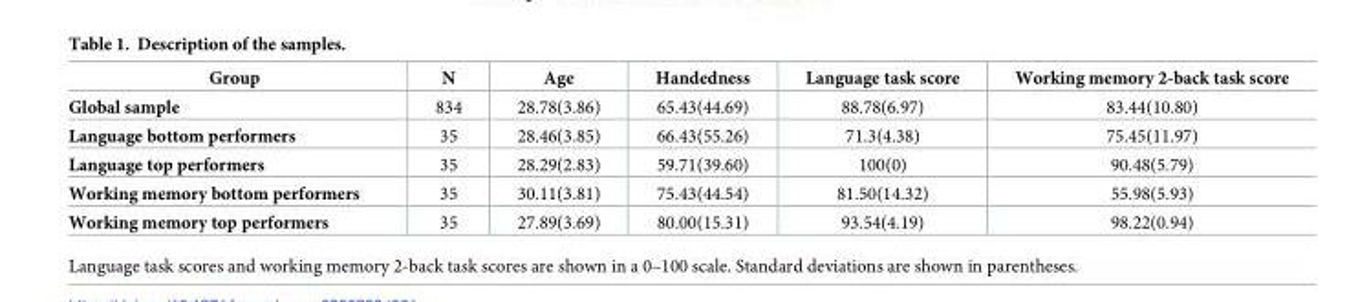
<table><thead><tr><td>Group</td><td>N</td><td>Age</td><td>Handedness</td><td>Language task score</td><td>Working memory 2-back task score</td></tr></thead><tbody><tr><td>Global sample</td><td>834</td><td>28.78(3.86)</td><td>65.43(44.69)</td><td>88.78(6.97)</td><td>83.44(10.80)</td></tr><tr><td>Language bottom performers</td><td>35</td><td>28.46(3.85)</td><td>66.43(55.26)</td><td>71.3(4.38)</td><td>75.45(11.97)</td></tr><tr><td>Language top performers</td><td>35</td><td>28.29(2.83)</td><td>59.71(39.60)</td><td>100(0)</td><td>90.48(5.79)</td></tr><tr><td>Working memory bottom performers</td><td>35</td><td>30.11(3.81)</td><td>75.43(44.54)</td><td>81.50(14.32)</td><td>55.98(5.93)</td></tr><tr><td>Working memory top performers</td><td>35</td><td>27.89(3.69)</td><td>80.00(15.31)</td><td>93.54(4.19)</td><td>98.22(0.94)</td></tr></tbody></table>